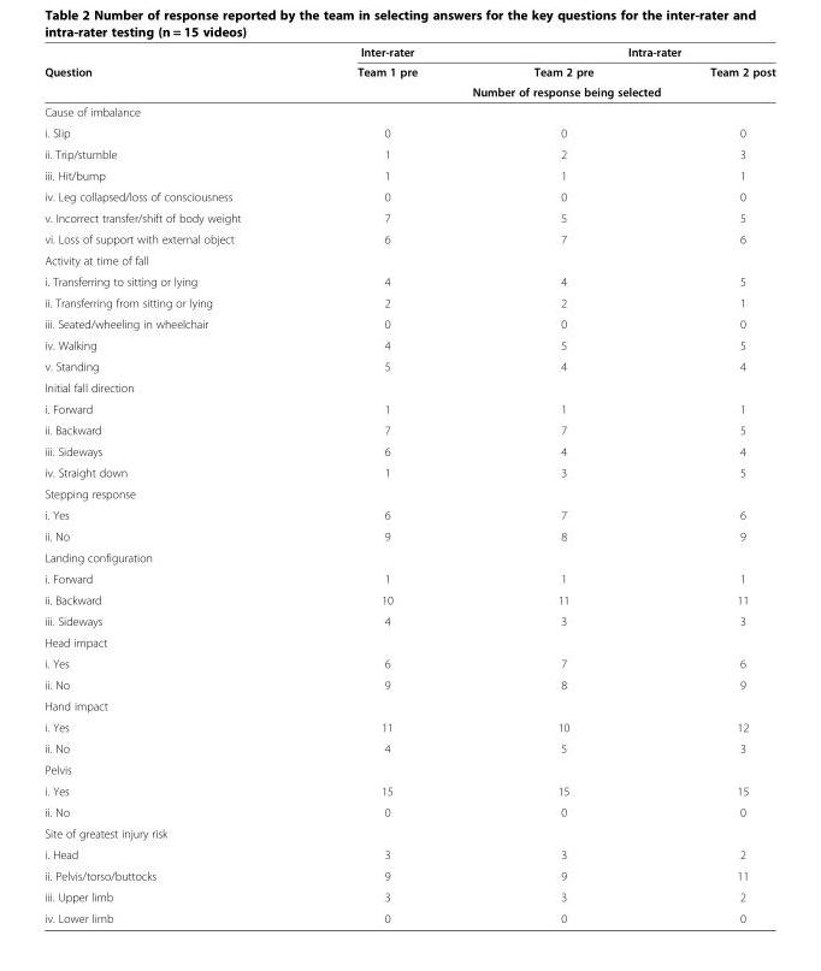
<table><thead><tr><td rowspan="3">Question</td><td rowspan="2">Inter-rater Team 1 pre</td><td colspan="2">Intra-rater</td></tr><tr><td>Team 2 pre</td><td>Team 2 post</td></tr><tr><td colspan="3">Number of response being selected</td></tr></thead><tbody><tr><td colspan="4">Cause of imbalance</td></tr><tr><td>i. Slip</td><td>0</td><td>0</td><td>0</td></tr><tr><td>ii. Trip/stumble</td><td>1</td><td>2</td><td>3</td></tr><tr><td>iii. Hit/bump</td><td>1</td><td>1</td><td>1</td></tr><tr><td>iv. Leg collapsed/loss of consciousness</td><td>0</td><td>0</td><td>0</td></tr><tr><td>v. Incorrect transfer/shift of body weight</td><td>7</td><td>5</td><td>5</td></tr><tr><td>vi. Loss of support with external object</td><td>6</td><td>7</td><td>6</td></tr><tr><td colspan="4">Activity at time of fall</td></tr><tr><td>i. Transferring to sitting or lying</td><td>4</td><td>4</td><td>5</td></tr><tr><td>ii. Transferring from sitting or lying</td><td>2</td><td>2</td><td>1</td></tr><tr><td>iii. Seated/wheeling in wheelchair</td><td>0</td><td>0</td><td>0</td></tr><tr><td>iv. Walking</td><td>4</td><td>5</td><td>5</td></tr><tr><td>v. Standing</td><td>5</td><td>4</td><td>4</td></tr><tr><td colspan="4">Initial fall direction</td></tr><tr><td>i. Forward</td><td>1</td><td>1</td><td>1</td></tr><tr><td>ii. Backward</td><td>7</td><td>7</td><td>5</td></tr><tr><td>iii. Sideways</td><td>6</td><td>4</td><td>4</td></tr><tr><td>iv. Straight down</td><td>1</td><td>3</td><td>5</td></tr><tr><td colspan="4">Stepping response</td></tr><tr><td>i. Yes</td><td>6</td><td>7</td><td>6</td></tr><tr><td>ii. No</td><td>9</td><td>8</td><td>9</td></tr><tr><td colspan="4">Landing configuration</td></tr><tr><td>i. Forward</td><td>1</td><td>1</td><td>1</td></tr><tr><td>ii. Backward</td><td>10</td><td>11</td><td>11</td></tr><tr><td>iii. Sideways</td><td>4</td><td>3</td><td>3</td></tr><tr><td colspan="4">Head impact</td></tr><tr><td>i. Yes</td><td>6</td><td>7</td><td>6</td></tr><tr><td>ii. No</td><td>9</td><td>8</td><td>9</td></tr><tr><td colspan="4">Hand impact</td></tr><tr><td>i. Yes</td><td>11</td><td>10</td><td>12</td></tr><tr><td>ii. No</td><td>4</td><td>5</td><td>3</td></tr><tr><td colspan="4">Pelvis</td></tr><tr><td>i. Yes</td><td>15</td><td>15</td><td>15</td></tr><tr><td>ii. No</td><td>0</td><td>0</td><td>0</td></tr><tr><td colspan="4">Site of greatest injury risk</td></tr><tr><td>i. Head</td><td>3</td><td>3</td><td>2</td></tr><tr><td>ii. Pelvis/torso/buttocks</td><td>9</td><td>9</td><td>11</td></tr><tr><td>iii. Upper limb</td><td>3</td><td>3</td><td>2</td></tr><tr><td>iv. Lower limb</td><td>0</td><td>0</td><td>0</td></tr></tbody></table>